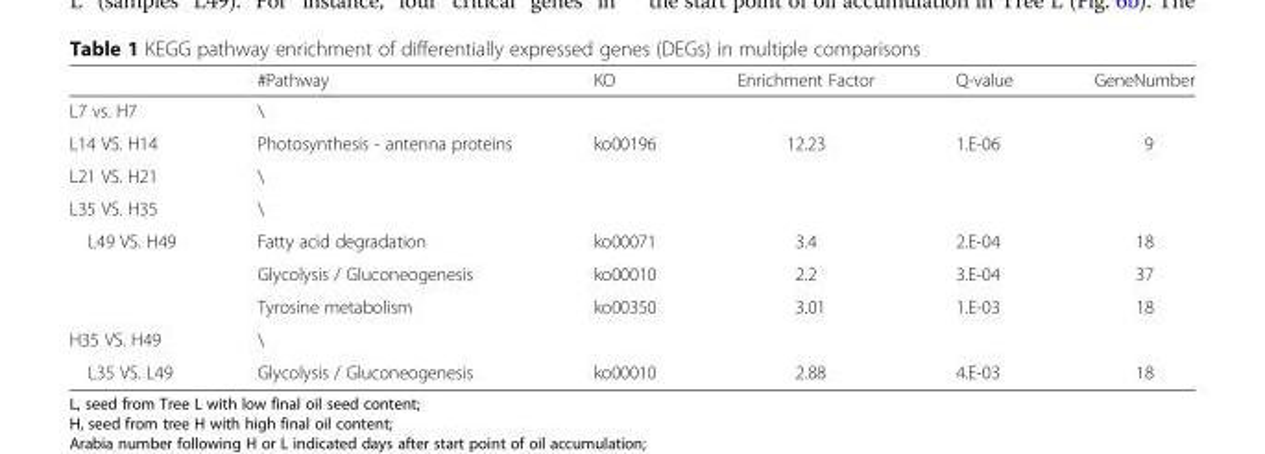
<table><thead><tr><td></td><td>#Pathway</td><td>KO</td><td>Enrichment Factor</td><td>Q-value</td><td>GeneNumber</td></tr></thead><tbody><tr><td>L7 vs. H7</td><td>\</td><td></td><td></td><td></td><td></td></tr><tr><td>L14 VS. H14</td><td>Photosynthesis - antenna proteins</td><td>ko00196</td><td>12.23</td><td>1.E-06</td><td>9</td></tr><tr><td>L21 VS. H21</td><td>\</td><td></td><td></td><td></td><td></td></tr><tr><td>L35 VS. H35</td><td>\</td><td></td><td></td><td></td><td></td></tr><tr><td rowspan="3">L49 VS. H49</td><td>Fatty acid degradation</td><td>ko00071</td><td>3.4</td><td>2.E-04</td><td>18</td></tr><tr><td>Glycolysis / Gluconeogenesis</td><td>ko00010</td><td>2.2</td><td>3.E-04</td><td>37</td></tr><tr><td>Tyrosine metabolism</td><td>ko00350</td><td>3.01</td><td>1.E-03</td><td>18</td></tr><tr><td>H35 VS. H49</td><td>\</td><td></td><td></td><td></td><td></td></tr><tr><td>L35 VS. L49</td><td>Glycolysis / Gluconeogenesis</td><td>ko00010</td><td>2.88</td><td>4.E-03</td><td>18</td></tr></tbody></table>